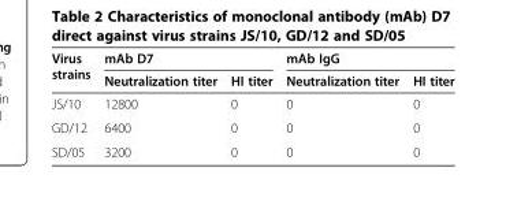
<table><thead><tr><td rowspan="2">Virus strains</td><td colspan="2">mAb D7</td><td colspan="2">mAb IgG</td></tr><tr><td>Neutralization titer</td><td>HI titer</td><td>Neutralization titer</td><td>HI titer</td></tr></thead><tbody><tr><td>JS/10</td><td>12800</td><td>0</td><td>0</td><td>0</td></tr><tr><td>GD/12</td><td>6400</td><td>0</td><td>0</td><td>0</td></tr><tr><td>SD/05</td><td>3200</td><td>0</td><td>0</td><td>0</td></tr></tbody></table>